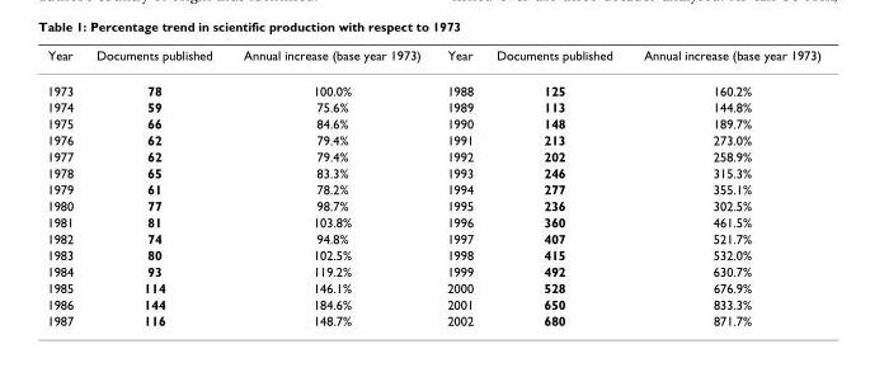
<table><thead><tr><td>Year</td><td>Documents published</td><td>Annual increase (base year 1973)</td><td>Year</td><td>Documents published</td><td>Annual increase (base year 1973)</td></tr></thead><tbody><tr><td>1973</td><td>78</td><td>100.0%</td><td>1988</td><td>125</td><td>160.2%</td></tr><tr><td>1974</td><td>59</td><td>75.6%</td><td>1989</td><td>113</td><td>144.8%</td></tr><tr><td>1975</td><td>66</td><td>84.6%</td><td>1990</td><td>148</td><td>189.7%</td></tr><tr><td>1976</td><td>62</td><td>79.4%</td><td>1991</td><td>213</td><td>273.0%</td></tr><tr><td>1977</td><td>62</td><td>79.4%</td><td>1992</td><td>202</td><td>258.9%</td></tr><tr><td>1978</td><td>65</td><td>83.3%</td><td>1993</td><td>246</td><td>315.3%</td></tr><tr><td>1979</td><td>61</td><td>78.2%</td><td>1994</td><td>277</td><td>355.1%</td></tr><tr><td>1980</td><td>77</td><td>98.7%</td><td>1995</td><td>236</td><td>302.5%</td></tr><tr><td>1981</td><td>81</td><td>103.8%</td><td>1996</td><td>360</td><td>461.5%</td></tr><tr><td>1982</td><td>74</td><td>94.8%</td><td>1997</td><td>407</td><td>521.7%</td></tr><tr><td>1983</td><td>80</td><td>102.5%</td><td>1998</td><td>415</td><td>532.0%</td></tr><tr><td>1984</td><td>93</td><td>119.2%</td><td>1999</td><td>492</td><td>630.7%</td></tr><tr><td>1985</td><td>114</td><td>146.1%</td><td>2000</td><td>528</td><td>676.9%</td></tr><tr><td>1986</td><td>144</td><td>184.6%</td><td>2001</td><td>650</td><td>833.3%</td></tr><tr><td>1987</td><td>116</td><td>148.7%</td><td>2002</td><td>680</td><td>871.7%</td></tr></tbody></table>